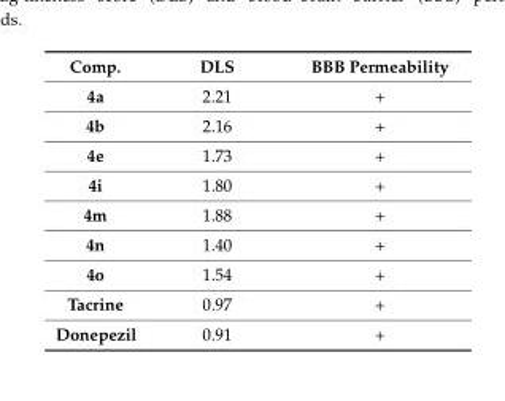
<table><thead><tr><td>Comp.</td><td>DLS</td><td>BBB Permeability</td></tr></thead><tbody><tr><td>4a</td><td>2.21</td><td>+</td></tr><tr><td>4b</td><td>2.16</td><td>+</td></tr><tr><td>4e</td><td>1.73</td><td>+</td></tr><tr><td>4i</td><td>1.80</td><td>+</td></tr><tr><td>4m</td><td>1.88</td><td>+</td></tr><tr><td>4n</td><td>1.40</td><td>+</td></tr><tr><td>4o</td><td>1.54</td><td>+</td></tr><tr><td>Tacrine</td><td>0.97</td><td>+</td></tr><tr><td>Donepezil</td><td>0.91</td><td>+</td></tr></tbody></table>